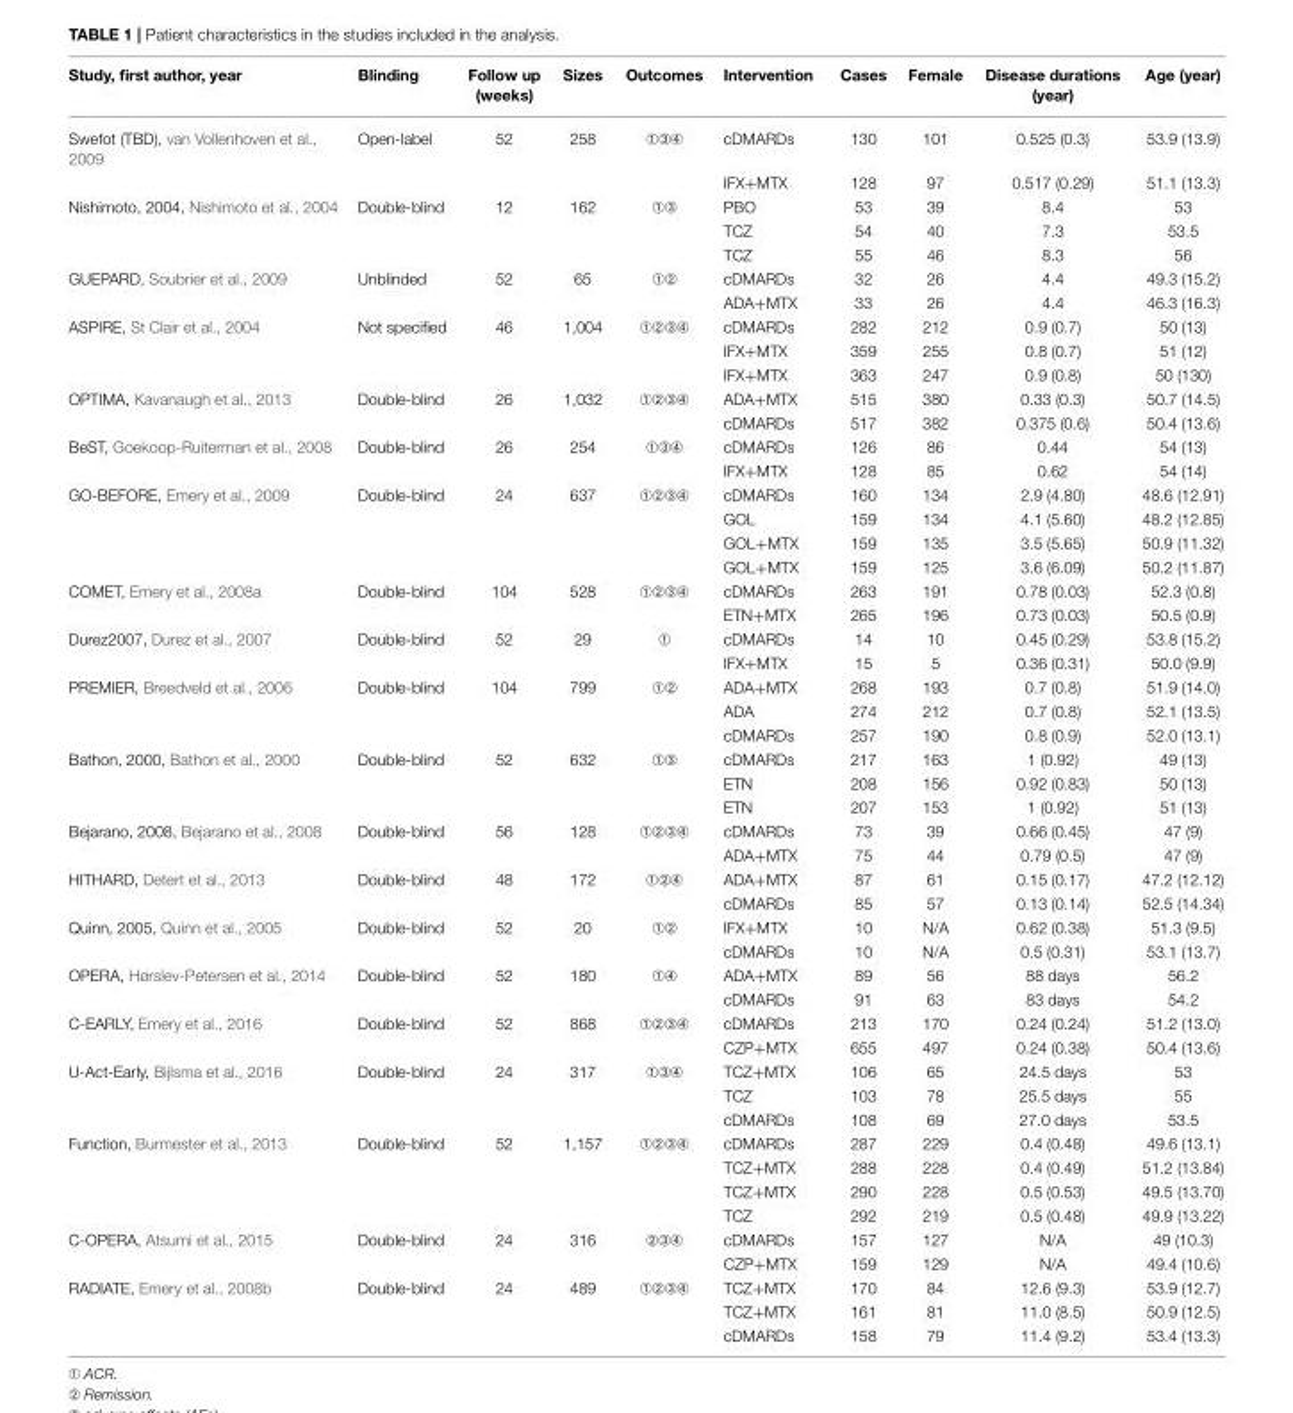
<table><thead><tr><td>Study, first author, year</td><td>Blinding</td><td>Follow up (weeks)</td><td>Sizes</td><td>Outcomes</td><td>Intervention</td><td>Cases</td><td>Female</td><td>Disease durations (year)</td><td>Age (year)</td></tr></thead><tbody><tr><td rowspan="2">Swefot (TBD), van Vollenhoven et al., 2009</td><td>Open-label</td><td>52</td><td>258</td><td></td><td>cDMARDs</td><td>130</td><td>101</td><td>0.525 (0.3)</td><td>53.9 (13.9)</td></tr><tr><td></td><td></td><td></td><td></td><td>IFX+MTX</td><td>128</td><td>97</td><td>0.517 (0.29)</td><td>51.1 (13.3)</td></tr><tr><td rowspan="3">Nishimoto, 2004, Nishimoto et al., 2004</td><td>Double-blind</td><td>12</td><td>162</td><td></td><td>PBO</td><td>53</td><td>39</td><td>8.4</td><td>53</td></tr><tr><td></td><td></td><td></td><td></td><td>TCZ</td><td>54</td><td>40</td><td>7.3</td><td>53.5</td></tr><tr><td></td><td></td><td></td><td></td><td>TCZ</td><td>55</td><td>46</td><td>8.3</td><td>56</td></tr><tr><td rowspan="2">GUEPARD, Soubrier et al., 2009</td><td>Unblinded</td><td>52</td><td>65</td><td></td><td>cDMARDs</td><td>32</td><td>26</td><td>4.4</td><td>49.3 (15.2)</td></tr><tr><td></td><td></td><td></td><td></td><td>ADA+MTX</td><td>33</td><td>26</td><td>4.4</td><td>46.3 (16.3)</td></tr><tr><td rowspan="3">ASPIRE, St Clair et al., 2004</td><td>Not specified</td><td>46</td><td>1,004</td><td></td><td>cDMARDs</td><td>282</td><td>212</td><td>0.9 (0.7)</td><td>50 (13)</td></tr><tr><td></td><td></td><td></td><td></td><td>IFX+MTX</td><td>359</td><td>255</td><td>0.8 (0.7)</td><td>51 (12)</td></tr><tr><td></td><td></td><td></td><td></td><td>IFX+MTX</td><td>363</td><td>247</td><td>0.9 (0.8)</td><td>50 (130)</td></tr><tr><td rowspan="2">OPTIMA, Kavanaugh et al., 2013</td><td>Double-blind</td><td>26</td><td>1,032</td><td></td><td>ADA+MTX</td><td>515</td><td>380</td><td>0.33 (0.3)</td><td>50.7 (14.5)</td></tr><tr><td></td><td></td><td></td><td></td><td>cDMARDs</td><td>517</td><td>382</td><td>0.375 (0.6)</td><td>50.4 (13.6)</td></tr><tr><td rowspan="2">BeST, Goekoop-Ruiterman et al., 2008</td><td>Double-blind</td><td>26</td><td>254</td><td></td><td>cDMARDs</td><td>126</td><td>86</td><td>0.44</td><td>54 (13)</td></tr><tr><td></td><td></td><td></td><td></td><td>IFX+MTX</td><td>128</td><td>85</td><td>0.62</td><td>54 (14)</td></tr><tr><td rowspan="4">GO-BEFORE, Emery et al., 2009</td><td>Double-blind</td><td>24</td><td>637</td><td></td><td>cDMARDs</td><td>160</td><td>134</td><td>2.9 (4.80)</td><td>48.6 (12.91)</td></tr><tr><td></td><td></td><td></td><td></td><td>GOL</td><td>159</td><td>134</td><td>4.1 (5.60)</td><td>48.2 (12.85)</td></tr><tr><td></td><td></td><td></td><td></td><td>GOL+MTX</td><td>159</td><td>135</td><td>3.5 (5.65)</td><td>50.9 (11.32)</td></tr><tr><td></td><td></td><td></td><td></td><td>GOL+MTX</td><td>159</td><td>125</td><td>3.6 (6.09)</td><td>50.2 (11.87)</td></tr><tr><td rowspan="2">COMET, Emery et al., 2008a</td><td>Double-blind</td><td>104</td><td>528</td><td></td><td>cDMARDs</td><td>263</td><td>191</td><td>0.78 (0.03)</td><td>52.3 (0.8)</td></tr><tr><td></td><td></td><td></td><td></td><td>ETN+MTX</td><td>265</td><td>196</td><td>0.73 (0.03)</td><td>50.5 (0.9)</td></tr><tr><td rowspan="2">Durez2007, Durez et al., 2007</td><td>Double-blind</td><td>52</td><td>29</td><td></td><td>cDMARDs</td><td>14</td><td>10</td><td>0.45 (0.29)</td><td>53.8 (15.2)</td></tr><tr><td></td><td></td><td></td><td></td><td>IFX+MTX</td><td>15</td><td>5</td><td>0.36 (0.31)</td><td>50.0 (9.9)</td></tr><tr><td rowspan="3">PREMIER, Breedveld et al., 2006</td><td>Double-blind</td><td>104</td><td>799</td><td></td><td>ADA+MTX</td><td>268</td><td>193</td><td>0.7 (0.8)</td><td>51.9 (14.0)</td></tr><tr><td></td><td></td><td></td><td></td><td>ADA</td><td>274</td><td>212</td><td>0.7 (0.8)</td><td>52.1 (13.5)</td></tr><tr><td></td><td></td><td></td><td></td><td>cDMARDs</td><td>257</td><td>190</td><td>0.8 (0.9)</td><td>52.0 (13.1)</td></tr><tr><td rowspan="3">Bathon, 2000, Bathon et al., 2000</td><td>Double-blind</td><td>52</td><td>632</td><td></td><td>cDMARDs</td><td>217</td><td>163</td><td>1 (0.92)</td><td>49 (13)</td></tr><tr><td></td><td></td><td></td><td></td><td>ETN</td><td>208</td><td>156</td><td>0.92 (0.83)</td><td>50 (13)</td></tr><tr><td></td><td></td><td></td><td></td><td>ETN</td><td>207</td><td>153</td><td>1 (0.92)</td><td>51 (13)</td></tr><tr><td rowspan="2">Bejarano, 2008, Bejarano et al., 2008</td><td>Double-blind</td><td>56</td><td>128</td><td></td><td>cDMARDs</td><td>73</td><td>39</td><td>0.66 (0.45)</td><td>47 (9)</td></tr><tr><td></td><td></td><td></td><td></td><td>ADA+MTX</td><td>75</td><td>44</td><td>0.79 (0.5)</td><td>47 (9)</td></tr><tr><td rowspan="2">HITHARD, Detert et al., 2013</td><td>Double-blind</td><td>48</td><td>172</td><td></td><td>ADA+MTX</td><td>87</td><td>61</td><td>0.15 (0.17)</td><td>47.2 (12.12)</td></tr><tr><td></td><td></td><td></td><td></td><td>cDMARDs</td><td>85</td><td>57</td><td>0.13 (0.14)</td><td>52.5 (14.34)</td></tr><tr><td rowspan="2">Quinn, 2005, Quinn et al., 2005</td><td>Double-blind</td><td>52</td><td>20</td><td></td><td>IFX+MTX</td><td>10</td><td>N/A</td><td>0.62 (0.38)</td><td>51.3 (9.5)</td></tr><tr><td></td><td></td><td></td><td></td><td>cDMARDs</td><td>10</td><td>N/A</td><td>0.5 (0.31)</td><td>53.1 (13.7)</td></tr><tr><td rowspan="2">OPERA, Hørslev-Petersen et al., 2014</td><td>Double-blind</td><td>52</td><td>180</td><td></td><td>ADA+MTX</td><td>89</td><td>56</td><td>88 days</td><td>56.2</td></tr><tr><td></td><td></td><td></td><td></td><td>cDMARDs</td><td>91</td><td>63</td><td>83 days</td><td>54.2</td></tr><tr><td rowspan="2">C-EARLY, Emery et al., 2016</td><td>Double-blind</td><td>52</td><td>868</td><td></td><td>cDMARDs</td><td>213</td><td>170</td><td>0.24 (0.24)</td><td>51.2 (13.0)</td></tr><tr><td></td><td></td><td></td><td></td><td>CZP+MTX</td><td>655</td><td>497</td><td>0.24 (0.38)</td><td>50.4 (13.6)</td></tr><tr><td rowspan="3">U-Act-Early, Bijlsma et al., 2016</td><td>Double-blind</td><td>24</td><td>317</td><td></td><td>TCZ+MTX</td><td>106</td><td>65</td><td>24.5 days</td><td>53</td></tr><tr><td></td><td></td><td></td><td></td><td>TCZ</td><td>103</td><td>78</td><td>25.5 days</td><td>55</td></tr><tr><td></td><td></td><td></td><td></td><td>cDMARDs</td><td>108</td><td>69</td><td>27.0 days</td><td>53.5</td></tr><tr><td rowspan="4">Function, Burmester et al., 2013</td><td>Double-blind</td><td>52</td><td>1,157</td><td></td><td>cDMARDs</td><td>287</td><td>229</td><td>0.4 (0.48)</td><td>49.6 (13.1)</td></tr><tr><td></td><td></td><td></td><td></td><td>TCZ+MTX</td><td>288</td><td>228</td><td>0.4 (0.49)</td><td>51.2 (13.84)</td></tr><tr><td></td><td></td><td></td><td></td><td>TCZ+MTX</td><td>290</td><td>228</td><td>0.5 (0.53)</td><td>49.5 (13.70)</td></tr><tr><td></td><td></td><td></td><td></td><td>TCZ</td><td>292</td><td>219</td><td>0.5 (0.48)</td><td>49.9 (13.22)</td></tr><tr><td rowspan="2">C-OPERA, Atsumi et al., 2015</td><td>Double-blind</td><td>24</td><td>316</td><td></td><td>cDMARDs</td><td>157</td><td>127</td><td>N/A</td><td>49 (10.3)</td></tr><tr><td></td><td></td><td></td><td></td><td>CZP+MTX</td><td>159</td><td>129</td><td>N/A</td><td>49.4 (10.6)</td></tr><tr><td rowspan="3">RADIATE, Emery et al., 2008b</td><td>Double-blind</td><td>24</td><td>489</td><td></td><td>TCZ+MTX</td><td>170</td><td>84</td><td>12.6 (9.3)</td><td>53.9 (12.7)</td></tr><tr><td></td><td></td><td></td><td></td><td>TCZ+MTX</td><td>161</td><td>81</td><td>11.0 (8.5)</td><td>50.9 (12.5)</td></tr><tr><td></td><td></td><td></td><td></td><td>cDMARDs</td><td>158</td><td>79</td><td>11.4 (9.2)</td><td>53.4 (13.3)</td></tr></tbody></table>